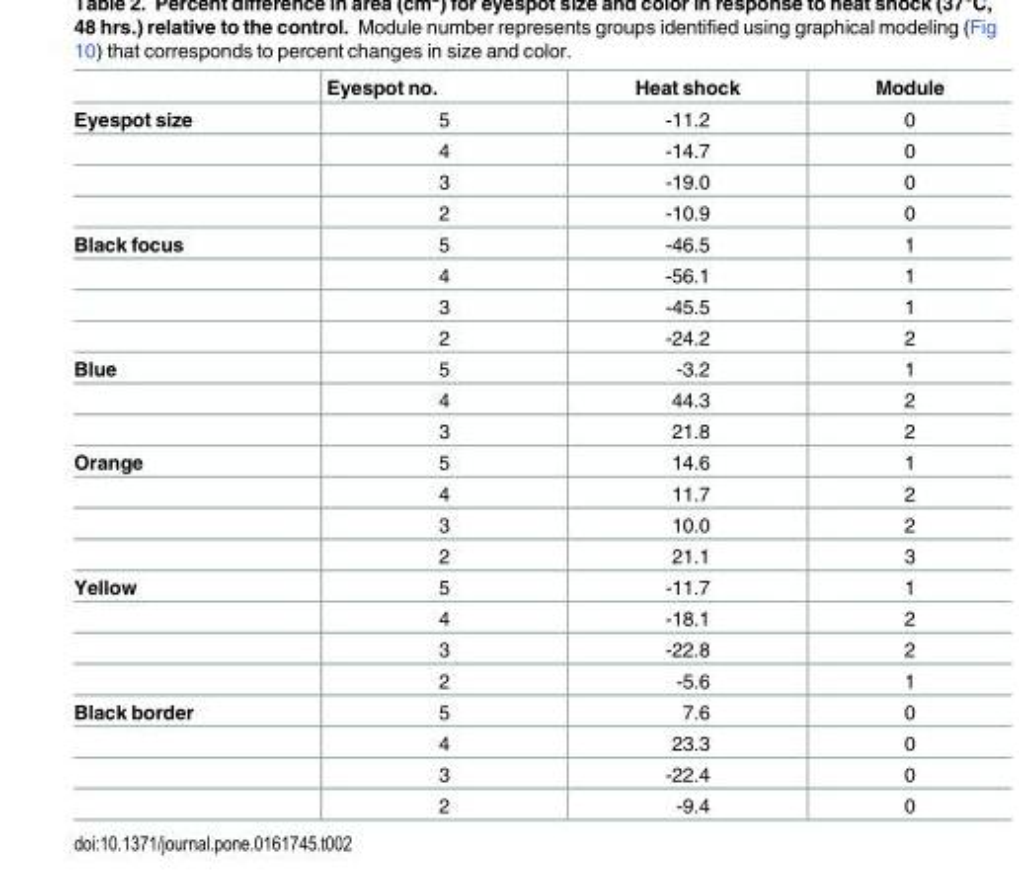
<table><thead><tr><td></td><td>Eyespot no.</td><td>Heat shock</td><td>Module</td></tr></thead><tbody><tr><td rowspan="4">Eyespot size</td><td>5</td><td>-11.2</td><td>0</td></tr><tr><td>4</td><td>-14.7</td><td>0</td></tr><tr><td>3</td><td>-19.0</td><td>0</td></tr><tr><td>2</td><td>-10.9</td><td>0</td></tr><tr><td rowspan="4">Black focus</td><td>5</td><td>-46.5</td><td>1</td></tr><tr><td>4</td><td>-56.1</td><td>1</td></tr><tr><td>3</td><td>-45.5</td><td>1</td></tr><tr><td>2</td><td>-24.2</td><td>2</td></tr><tr><td rowspan="3">Blue</td><td>5</td><td>-3.2</td><td>1</td></tr><tr><td>4</td><td>44.3</td><td>2</td></tr><tr><td>3</td><td>21.8</td><td>2</td></tr><tr><td rowspan="4">Orange</td><td>5</td><td>14.6</td><td>1</td></tr><tr><td>4</td><td>11.7</td><td>2</td></tr><tr><td>3</td><td>10.0</td><td>2</td></tr><tr><td>2</td><td>21.1</td><td>3</td></tr><tr><td rowspan="4">Yellow</td><td>5</td><td>-11.7</td><td>1</td></tr><tr><td>4</td><td>-18.1</td><td>2</td></tr><tr><td>3</td><td>-22.8</td><td>2</td></tr><tr><td>2</td><td>-5.6</td><td>1</td></tr><tr><td rowspan="4">Black border</td><td>5</td><td>7.6</td><td>0</td></tr><tr><td>4</td><td>23.3</td><td>0</td></tr><tr><td>3</td><td>-22.4</td><td>0</td></tr><tr><td>2</td><td>-9.4</td><td>0</td></tr></tbody></table>